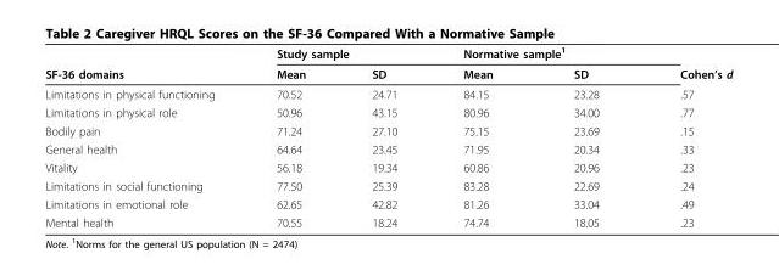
<table><thead><tr><td rowspan="2">SF-36 domains</td><td colspan="2">Study sample</td><td colspan="2">Normative sample<sup>1</sup></td><td rowspan="2">Cohen’s d</td></tr><tr><td>Mean</td><td>SD</td><td>Mean</td><td>SD</td></tr></thead><tbody><tr><td>Limitations in physical functioning</td><td>70.52</td><td>24.71</td><td>84.15</td><td>23.28</td><td>.57</td></tr><tr><td>Limitations in physical role</td><td>50.96</td><td>43.15</td><td>80.96</td><td>34.00</td><td>.77</td></tr><tr><td>Bodily pain</td><td>71.24</td><td>27.10</td><td>75.15</td><td>23.69</td><td>.15</td></tr><tr><td>General health</td><td>64.64</td><td>23.45</td><td>71.95</td><td>20.34</td><td>.33</td></tr><tr><td>Vitality</td><td>56.18</td><td>19.34</td><td>60.86</td><td>20.96</td><td>.23</td></tr><tr><td>Limitations in social functioning</td><td>77.50</td><td>25.39</td><td>83.28</td><td>22.69</td><td>.24</td></tr><tr><td>Limitations in emotional role</td><td>62.65</td><td>42.82</td><td>81.26</td><td>33.04</td><td>.49</td></tr><tr><td>Mental health</td><td>70.55</td><td>18.24</td><td>74.74</td><td>18.05</td><td>.23</td></tr></tbody></table>